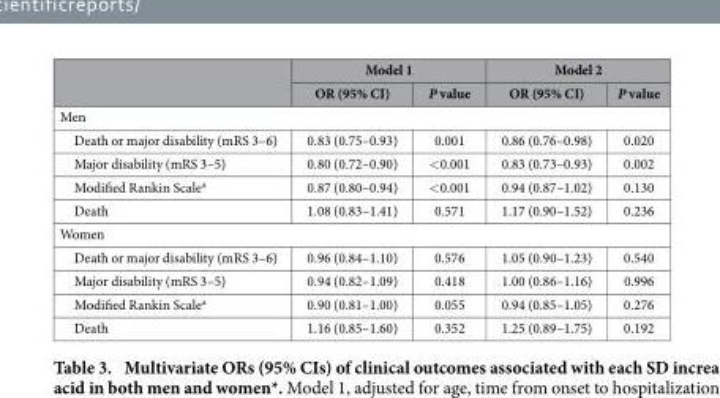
<table><thead><tr><td rowspan="2"></td><td colspan="2">Model 1</td><td colspan="2">Model 2</td></tr><tr><td>OR (95% CI)</td><td>P value</td><td>OR (95% CI)</td><td>P value</td></tr></thead><tbody><tr><td colspan="5">Men</td></tr><tr><td>Death or major disability (mRS 3–6)</td><td>0.83 (0.75–0.93)</td><td>0.001</td><td>0.86 (0.76–0.98)</td><td>0.020</td></tr><tr><td>Major disability (mRS 3–5)</td><td>0.80 (0.72–0.90)</td><td>&lt; 0.001</td><td>0.83 (0.73–0.93)</td><td>0.002</td></tr><tr><td>Modified Rankin Scale<sup>a</sup></td><td>0.87 (0.80–0.94)</td><td>&lt; 0.001</td><td>0.94 (0.87–1.02)</td><td>0.130</td></tr><tr><td>Death</td><td>1.08 (0.83–1.41)</td><td>0.571</td><td>1.17 (0.90–1.52)</td><td>0.236</td></tr><tr><td colspan="5">Women</td></tr><tr><td>Death or major disability (mRS 3–6)</td><td>0.96 (0.84–1.10)</td><td>0.576</td><td>1.05 (0.90–1.23)</td><td>0.540</td></tr><tr><td>Major disability (mRS 3–5)</td><td>0.94 (0.82–1.09)</td><td>0.418</td><td>1.00 (0.86–1.16)</td><td>0.996</td></tr><tr><td>Modified Rankin Scale<sup>a</sup></td><td>0.90 (0.81–1.00)</td><td>0.055</td><td>0.94 (0.85–1.05)</td><td>0.276</td></tr><tr><td>Death</td><td>1.16 (0.85–1.60)</td><td>0.352</td><td>1.25 (0.89–1.75)</td><td>0.192</td></tr></tbody></table>